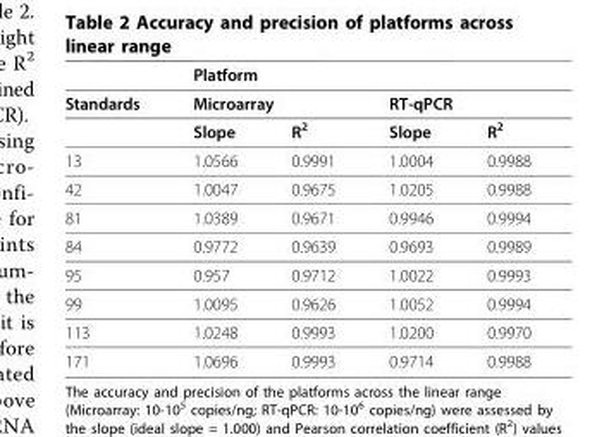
<table><thead><tr><td rowspan="3">Standards</td><td colspan="4">Platform</td></tr><tr><td colspan="2">Microarray</td><td colspan="2">RT-qPCR</td></tr><tr><td>Slope</td><td>R<sup>2</sup></td><td>Slope</td><td>R<sup>2</sup></td></tr></thead><tbody><tr><td>13</td><td>1.0566</td><td>0.9991</td><td>1.0004</td><td>0.9988</td></tr><tr><td>42</td><td>1.0047</td><td>0.9675</td><td>1.0205</td><td>0.9988</td></tr><tr><td>81</td><td>1.0389</td><td>0.9671</td><td>0.9946</td><td>0.9994</td></tr><tr><td>84</td><td>0.9772</td><td>0.9639</td><td>0.9693</td><td>0.9989</td></tr><tr><td>95</td><td>0.957</td><td>0.9712</td><td>1.0022</td><td>0.9993</td></tr><tr><td>99</td><td>1.0095</td><td>0.9626</td><td>1.0052</td><td>0.9994</td></tr><tr><td>113</td><td>1.0248</td><td>0.9993</td><td>1.0200</td><td>0.9970</td></tr><tr><td>171</td><td>1.0696</td><td>0.9993</td><td>0.9714</td><td>0.9988</td></tr></tbody></table>